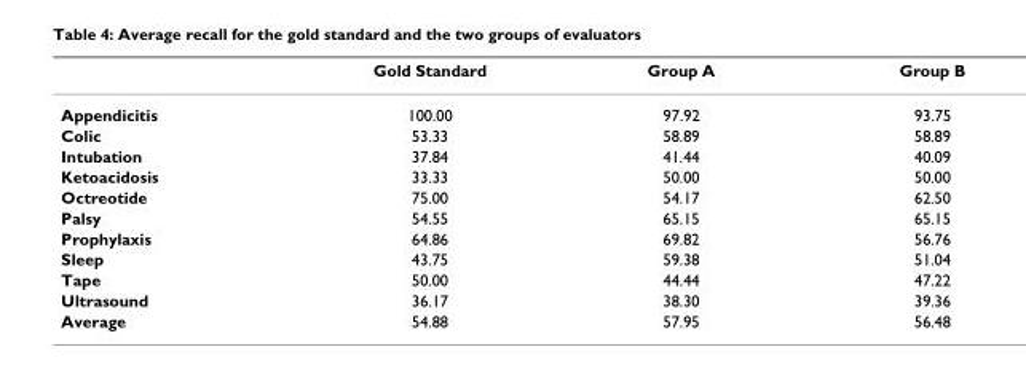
<table><thead><tr><td></td><td>Gold Standard</td><td>Group A</td><td>Group B</td></tr></thead><tbody><tr><td>Appendicitis</td><td>100.00</td><td>97.92</td><td>93.75</td></tr><tr><td>Colic</td><td>53.33</td><td>58.89</td><td>58.89</td></tr><tr><td>Intubation</td><td>37.84</td><td>41.44</td><td>40.09</td></tr><tr><td>Ketoacidosis</td><td>33.33</td><td>50.00</td><td>50.00</td></tr><tr><td>Octreotide</td><td>75.00</td><td>54.17</td><td>62.50</td></tr><tr><td>Palsy</td><td>54.55</td><td>65.15</td><td>65.15</td></tr><tr><td>Prophylaxis</td><td>64.86</td><td>69.82</td><td>56.76</td></tr><tr><td>Sleep</td><td>43.75</td><td>59.38</td><td>51.04</td></tr><tr><td>Tape</td><td>50.00</td><td>44.44</td><td>47.22</td></tr><tr><td>Ultrasound</td><td>36.17</td><td>38.30</td><td>39.36</td></tr><tr><td>Average</td><td>54.88</td><td>57.95</td><td>56.48</td></tr></tbody></table>